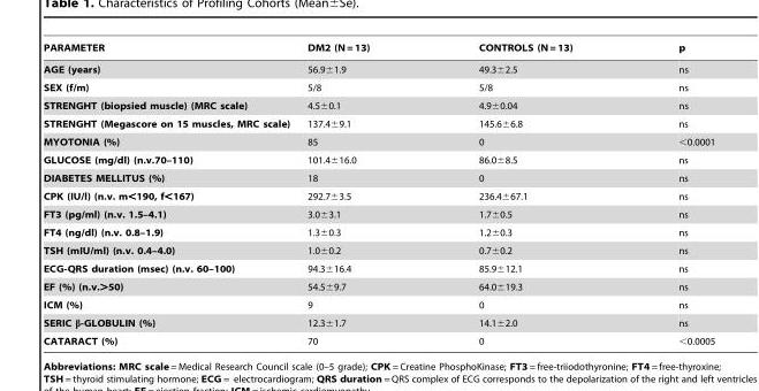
<table><thead><tr><td>PARAMETER</td><td>DM2 (N = 13)</td><td>CONTROLS (N = 13)</td><td>p</td></tr></thead><tbody><tr><td>AGE (years)</td><td>56.9±1.9</td><td>49.3±2.5</td><td>ns</td></tr><tr><td>SEX (f/m)</td><td>5/8</td><td>5/8</td><td>ns</td></tr><tr><td>STRENGHT (biopsied muscle) (MRC scale)</td><td>4.5±0.1</td><td>4.9±0.04</td><td>ns</td></tr><tr><td>STRENGHT (Megascore on 15 muscles, MRC scale)</td><td>137.4±9.1</td><td>145.6±6.8</td><td>ns</td></tr><tr><td>MYOTONIA (%)</td><td>85</td><td>0</td><td>&lt;0.0001</td></tr><tr><td>GLUCOSE (mg/dl) (n.v.70–110)</td><td>101.4±16.0</td><td>86.0±8.5</td><td>ns</td></tr><tr><td>DIABETES MELLITUS (%)</td><td>18</td><td>0</td><td>ns</td></tr><tr><td>CPK (IU/l) (n.v. m&lt;190, f&lt;167)</td><td>292.7±3.5</td><td>236.4±67.1</td><td>ns</td></tr><tr><td>FT3 (pg/ml) (n.v. 1.5–4.1)</td><td>3.0±3.1</td><td>1.7±0.5</td><td>ns</td></tr><tr><td>FT4 (ng/dl) (n.v. 0.8–1.9)</td><td>1.3±0.3</td><td>1.2±0.3</td><td>ns</td></tr><tr><td>TSH (mIU/ml) (n.v. 0.4–4.0)</td><td>1.0±0.2</td><td>0.7±0.2</td><td>ns</td></tr><tr><td>ECG-QRS duration (msec) (n.v. 60–100)</td><td>94.3±16.4</td><td>85.9±12.1</td><td>ns</td></tr><tr><td>EF (%) (n.v.&gt;50)</td><td>54.5±9.7</td><td>64.0±19.3</td><td>ns</td></tr><tr><td>ICM (%)</td><td>9</td><td>0</td><td>ns</td></tr><tr><td>SERIC β-GLOBULIN (%)</td><td>12.3±1.7</td><td>14.1±2.0</td><td>ns</td></tr><tr><td>CATARACT (%)</td><td>70</td><td>0</td><td>&lt;0.0005</td></tr></tbody></table>